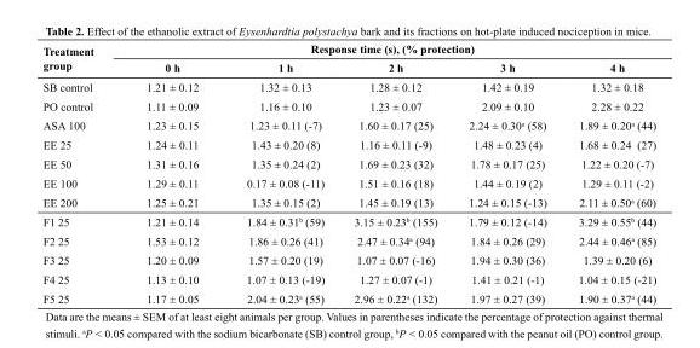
<table><thead><tr><td rowspan="2">Treatment group</td><td colspan="5">Response time (s), (% protection)</td></tr><tr><td>0 h</td><td>1 h</td><td>2 h</td><td>3 h</td><td>4 h</td></tr></thead><tbody><tr><td>SB control</td><td>1.21 ± 0.12</td><td>1.32 ± 0.13</td><td>1.28 ± 0.12</td><td>1.42 ± 0.19</td><td>1.32 ± 0.18</td></tr><tr><td>PO control</td><td>1.11 ± 0.09</td><td>1.16 ± 0.10</td><td>1.23 ± 0.07</td><td>2.09 ± 0.10</td><td>2.28 ± 0.22</td></tr><tr><td>ASA 100</td><td>1.23 ± 0.15</td><td>1.23 ± 0.11 (-7)</td><td>1.60 ± 0.17 (25)</td><td>2.24 ± 0.30<sup>a</sup> (58)</td><td>1.89 ± 0.20<sup>a</sup> (44)</td></tr><tr><td>EE 25</td><td>1.24 ± 0.11</td><td>1.43 ± 0.20 (8)</td><td>1.16 ± 0.11 (-9)</td><td>1.48 ± 0.23 (4)</td><td>1.68 ± 0.24 (27)</td></tr><tr><td>EE 50</td><td>1.31 ± 0.16</td><td>1.35 ± 0.24 (2)</td><td>1.69 ± 0.23 (32)</td><td>1.78 ± 0.17 (25)</td><td>1.22 ± 0.20 (-7)</td></tr><tr><td>EE 100</td><td>1.29 ± 0.11</td><td>0.17 ± 0.08 (-11)</td><td>1.51 ± 0.16 (18)</td><td>1.44 ± 0.19 (2)</td><td>1.29 ± 0.11 (-2)</td></tr><tr><td>EE 200</td><td>1.25 ± 0.21</td><td>1.35 ± 0.15 (2)</td><td>1.45 ± 0.19 (13)</td><td>1.24 ± 0.15 (-13)</td><td>2.11 ± 0.50<sup>a</sup> (60)</td></tr><tr><td>F1 25</td><td>1.21 ± 0.14</td><td>1.84 ± 0.31<sup>b</sup> (59)</td><td>3.15 ± 0.23b (155)</td><td>1.79 ± 0.12 (-14)</td><td>3.29 ± 0.55<sup>b</sup> (44)</td></tr><tr><td>F2 25</td><td>1.53 ± 0.12</td><td>1.86 ± 0.26 (41)</td><td>2.47 ± 0.34<sup>a</sup> (94)</td><td>1.84 ± 0.26 (29)</td><td>2.44 ± 0.46<sup>a</sup> (85)</td></tr><tr><td>F3 25</td><td>1.20 ± 0.09</td><td>1.57 ± 0.20 (19)</td><td>1.07 ± 0.07 (-16)</td><td>1.94 ± 0.30 (36)</td><td>1.39 ± 0.20 (6)</td></tr><tr><td>F4 25</td><td>1.13 ± 0.10</td><td>1.07 ± 0.13 (-19)</td><td>1.27 ± 0.07 (-1)</td><td>1.41 ± 0.21 (-1)</td><td>1.04 ± 0.15 (-21)</td></tr><tr><td>F5 25</td><td>1.17 ± 0.05</td><td>2.04 ± 0.23<sup>a</sup> (55)</td><td>2.96 ± 0.22<sup>a</sup> (132)</td><td>1.97 ± 0.27 (39)</td><td>1.90 ± 0.37<sup>a</sup> (44)</td></tr></tbody></table>